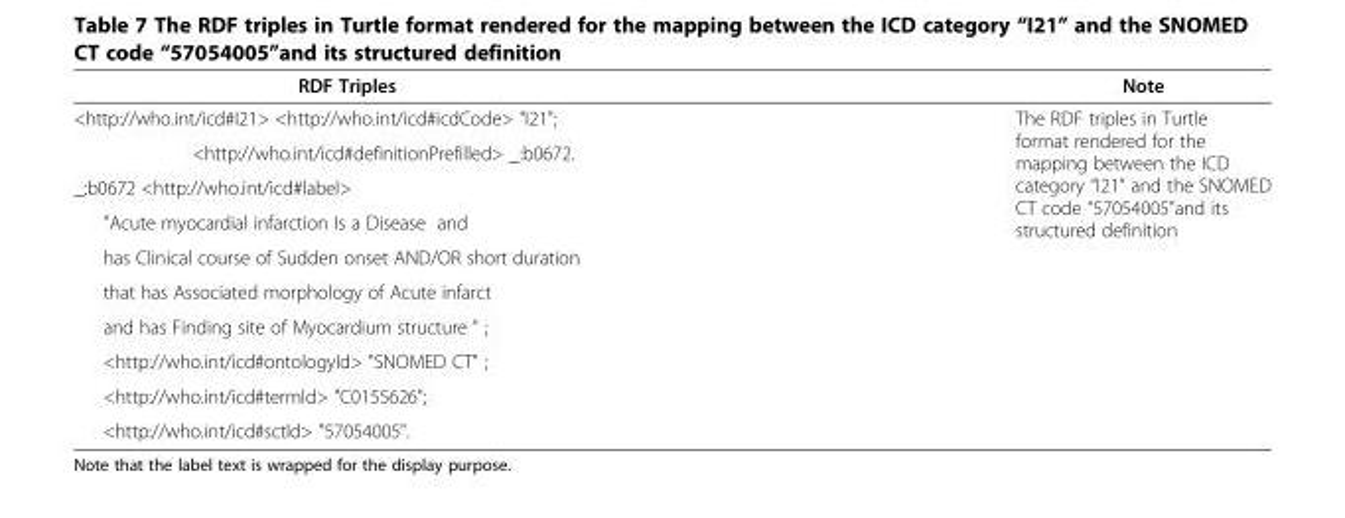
<table><thead><tr><td>RDF Triples</td><td>Note</td></tr></thead><tbody><tr><td>&lt;http://who.int/icd#I21&gt; &lt;http://who.int/icd#icdCode&gt; &quot;I21&quot;;</td><td rowspan="9">The RDF triples in Turtle format rendered for the mapping between the ICD category “I21” and the SNOMED CT code “57054005”and its structured definition</td></tr><tr><td>&lt;http://who.int/icd#definitionPrefilled&gt; _:b0672.</td></tr><tr><td>_:b0672 &lt;http://who.int/icd#label&gt;</td></tr><tr><td>&quot;Acute myocardial infarction Is a Disease and</td></tr><tr><td>has Clinical course of Sudden onset AND/OR short duration</td></tr><tr><td>that has Associated morphology of Acute infarct</td></tr><tr><td>and has Finding site of Myocardium structure &quot; ;</td></tr><tr><td>&lt;http://who.int/icd#ontologyId&gt; &quot;SNOMED CT&quot; ;</td></tr><tr><td>&lt;http://who.int/icd#termId&gt; &quot;C0155626&quot;;</td></tr><tr><td>&lt;http://who.int/icd#sctId&gt; &quot;57054005&quot;.</td><td></td></tr></tbody></table>